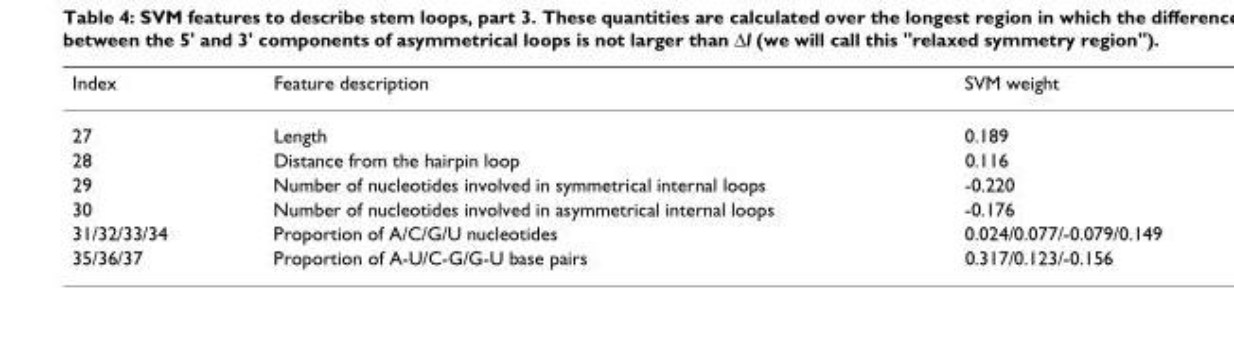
<table><thead><tr><td>Index</td><td>Feature description</td><td>SVM weight</td></tr></thead><tbody><tr><td>27</td><td>Length</td><td>0.189</td></tr><tr><td>28</td><td>Distance from the hairpin loop</td><td>0.116</td></tr><tr><td>29</td><td>Number of nucleotides involved in symmetrical internal loops</td><td>-0.220</td></tr><tr><td>30</td><td>Number of nucleotides involved in asymmetrical internal loops</td><td>-0.176</td></tr><tr><td>31/32/33/34</td><td>Proportion of A/C/G/U nucleotides</td><td>0.024/0.077/-0.079/0.149</td></tr><tr><td>35/36/37</td><td>Proportion of A-U/C-G/G-U base pairs</td><td>0.317/0.123/-0.156</td></tr></tbody></table>